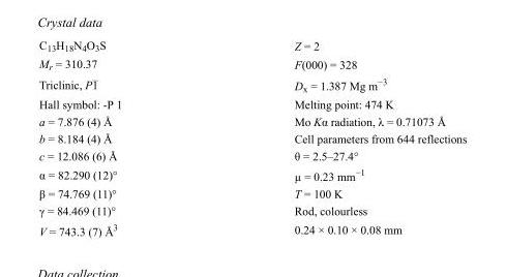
<table><tbody><tr><td>C<sub>13</sub>H<sub>18</sub>N<sub>4</sub>O<sub>3</sub>S</td><td>Z = 2</td></tr><tr><td>M<sub>r</sub> = 310.37</td><td>F(000) = 328</td></tr><tr><td>Triclinic, P1</td><td>D<sub>x</sub> = 1.387 Mg m<sup>−3</sup></td></tr><tr><td>Hall symbol: -P 1</td><td>Melting point: 474 K</td></tr><tr><td>a = 7.876 (4) Å</td><td>Mo Kα radiation, λ = 0.71073 Å</td></tr><tr><td>b = 8.184 (4) Å</td><td>Cell parameters from 644 reflections</td></tr><tr><td>c = 12.086 (6) Å</td><td>θ = 2.5–27.4°</td></tr><tr><td>α = 82.290 (12)°</td><td>µ = 0.23 mm<sup>−1</sup></td></tr><tr><td>β = 74.769 (11)°</td><td>T = 100 K</td></tr><tr><td>γ = 84.469 (11)°</td><td>Rod, colourless</td></tr><tr><td>V = 743.3 (7) Å<sup>3</sup></td><td>0.24 × 0.10 × 0.08 mm</td></tr></tbody></table>